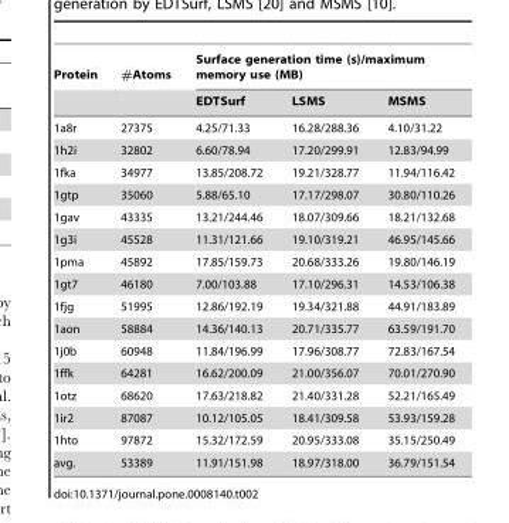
<table><thead><tr><td rowspan="2">Protein</td><td rowspan="2">#Atoms</td><td colspan="3">Surface generation time (s)/maximum memory use (MB)</td></tr><tr><td>EDTSurf</td><td>LSMS</td><td>MSMS</td></tr></thead><tbody><tr><td>1a8r</td><td>27375</td><td>4.25/71.33</td><td>16.28/288.36</td><td>4.10/31.22</td></tr><tr><td>1h2i</td><td>32802</td><td>6.60/78.94</td><td>17.20/299.91</td><td>12.83/94.99</td></tr><tr><td>1fka</td><td>34977</td><td>13.85/208.72</td><td>19.21/328.77</td><td>11.94/116.42</td></tr><tr><td>1gtp</td><td>35060</td><td>5.88/65.10</td><td>17.17/298.07</td><td>30.80/110.26</td></tr><tr><td>1gav</td><td>43335</td><td>13.21/244.46</td><td>18.07/309.66</td><td>18.21/132.68</td></tr><tr><td>1g3i</td><td>45528</td><td>11.31/121.66</td><td>19.10/319.21</td><td>46.95/145.66</td></tr><tr><td>1pma</td><td>45892</td><td>17.85/159.73</td><td>20.68/333.26</td><td>19.80/146.19</td></tr><tr><td>1gt7</td><td>46180</td><td>7.00/103.88</td><td>17.10/296.31</td><td>14.53/106.38</td></tr><tr><td>1fjg</td><td>51995</td><td>12.86/192.19</td><td>19.34/321.88</td><td>44.91/183.89</td></tr><tr><td>1aon</td><td>58884</td><td>14.36/140.13</td><td>20.71/335.77</td><td>63.59/191.70</td></tr><tr><td>1j0b</td><td>60948</td><td>11.84/196.99</td><td>17.96/308.77</td><td>72.83/167.54</td></tr><tr><td>1ffk</td><td>64281</td><td>16.62/200.09</td><td>21.00/356.07</td><td>70.01/270.90</td></tr><tr><td>1otz</td><td>68620</td><td>17.63/218.82</td><td>21.40/331.28</td><td>52.21/165.49</td></tr><tr><td>1ir2</td><td>87087</td><td>10.12/105.05</td><td>18.41/309.58</td><td>53.93/159.28</td></tr><tr><td>1hto</td><td>97872</td><td>15.32/172.59</td><td>20.95/333.08</td><td>35.15/250.49</td></tr><tr><td>avg.</td><td>53389</td><td>11.91/151.98</td><td>18.97/318.00</td><td>36.79/151.54</td></tr></tbody></table>